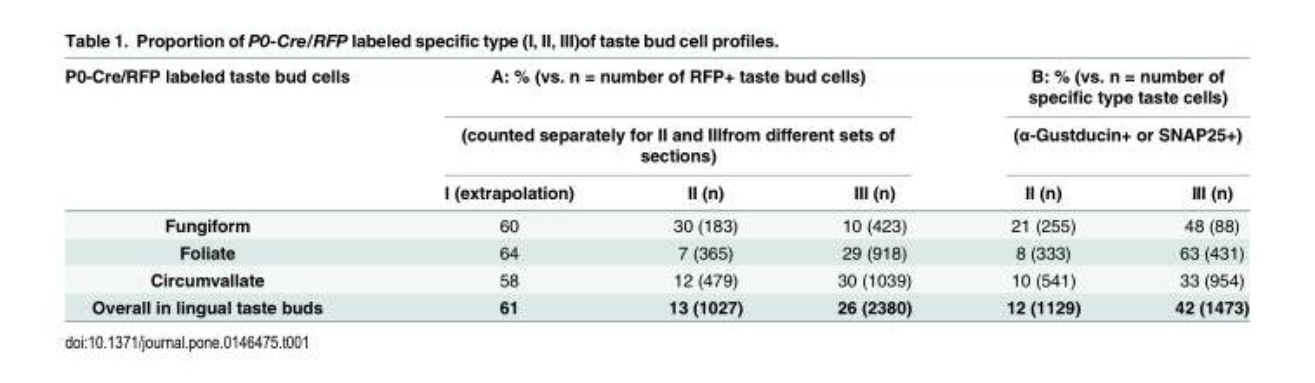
<table><thead><tr><td rowspan="3">P0-Cre/RFP labeled taste bud cells</td><td rowspan="2" colspan="3">A: % (vs. n = number of RFP+ taste bud cells) (counted separately for II and IIIfrom different sets of sections)</td><td rowspan="2" colspan="2">B: % (vs. n = number of specific type taste cells) (α-Gustducin+ or SNAP25+)</td></tr><tr></tr><tr><td>I (extrapolation)</td><td>II (n)</td><td>III (n)</td><td>II (n)</td><td>III (n)</td></tr></thead><tbody><tr><td>Fungiform</td><td>60</td><td>30 (183)</td><td>10 (423)</td><td>21 (255)</td><td>48 (88)</td></tr><tr><td>Foliate</td><td>64</td><td>7 (365)</td><td>29 (918)</td><td>8 (333)</td><td>63 (431)</td></tr><tr><td>Circumvallate</td><td>58</td><td>12 (479)</td><td>30 (1039)</td><td>10 (541)</td><td>33 (954)</td></tr><tr><td>Overall in lingual taste buds</td><td>61</td><td>13 (1027)</td><td>26 (2380)</td><td>12 (1129)</td><td>42 (1473)</td></tr></tbody></table>